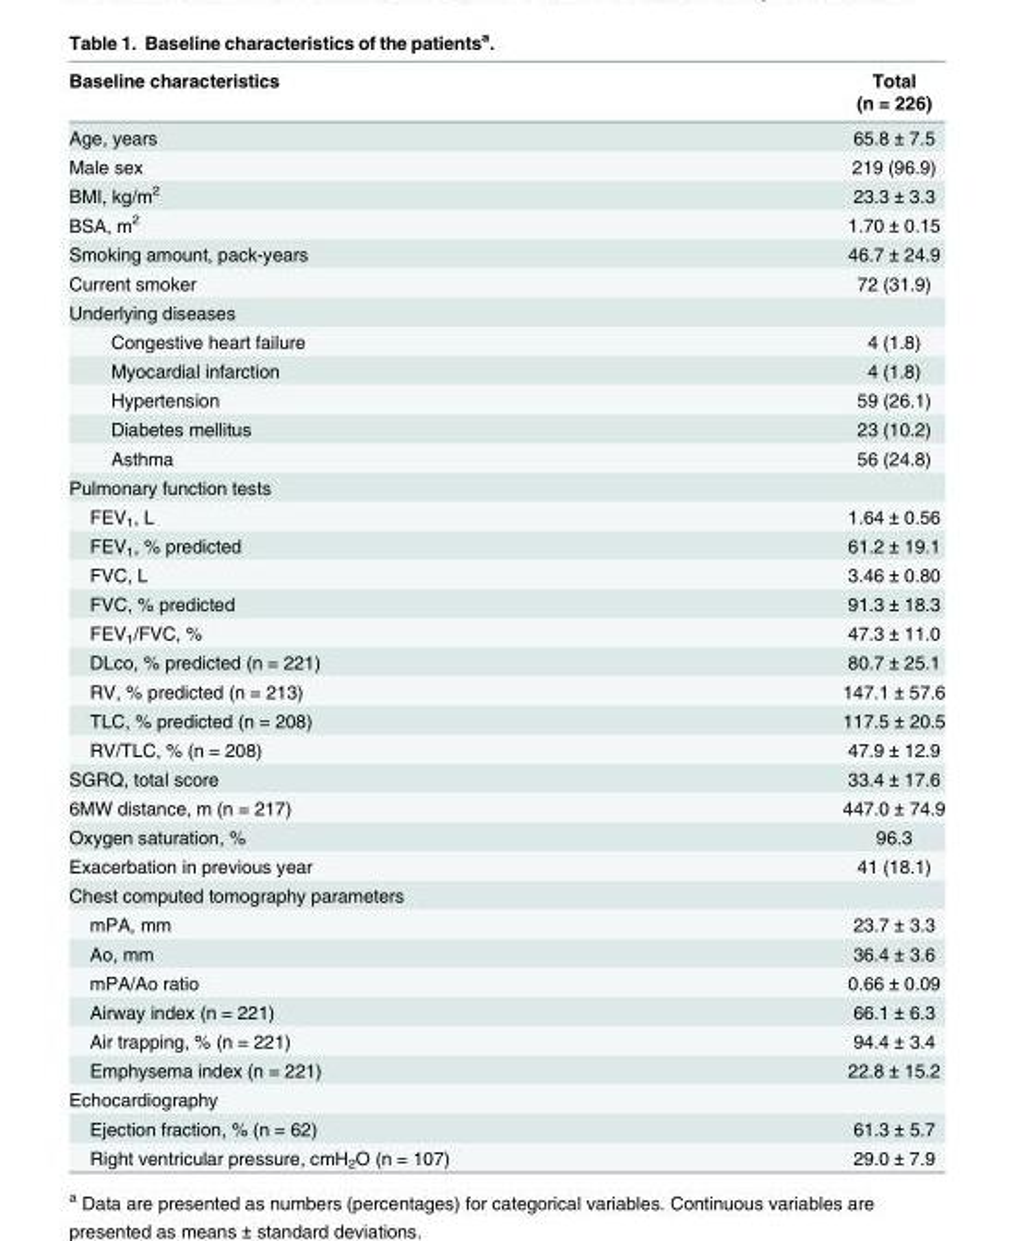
<table><thead><tr><td rowspan="2">Baseline characteristics</td><td rowspan="2">Total (n = 226)</td></tr><tr></tr></thead><tbody><tr><td>Age, years</td><td>65.8 ± 7.5</td></tr><tr><td>Male sex</td><td>219 (96.9)</td></tr><tr><td>BMI, kg/m<sup>2</sup></td><td>23.3 ± 3.3</td></tr><tr><td>BSA, m<sup>2</sup></td><td>1.70 ± 0.15</td></tr><tr><td>Smoking amount, pack-years</td><td>46.7 ± 24.9</td></tr><tr><td>Current smoker</td><td>72 (31.9)</td></tr><tr><td colspan="2">Underlying diseases</td></tr><tr><td>Congestive heart failure</td><td>4 (1.8)</td></tr><tr><td>Myocardial infarction</td><td>4 (1.8)</td></tr><tr><td>Hypertension</td><td>59 (26.1)</td></tr><tr><td>Diabetes mellitus</td><td>23 (10.2)</td></tr><tr><td>Asthma</td><td>56 (24.8)</td></tr><tr><td colspan="2">Pulmonary function tests</td></tr><tr><td>FEV<sub>1</sub>, L</td><td>1.64 ± 0.56</td></tr><tr><td>FEV<sub>1</sub>, % predicted</td><td>61.2 ± 19.1</td></tr><tr><td>FVC, L</td><td>3.46 ± 0.80</td></tr><tr><td>FVC, % predicted</td><td>91.3 ± 18.3</td></tr><tr><td>FEV<sub>1</sub>/FVC, %</td><td>47.3 ± 11.0</td></tr><tr><td>DLco, % predicted (n = 221)</td><td>80.7 ± 25.1</td></tr><tr><td>RV, % predicted (n = 213)</td><td>147.1 ± 57.6</td></tr><tr><td>TLC, % predicted (n = 208)</td><td>117.5 ± 20.5</td></tr><tr><td>RV/TLC, % (n = 208)</td><td>47.9 ± 12.9</td></tr><tr><td>SGRQ, total score</td><td>33.4 ± 17.6</td></tr><tr><td>6MW distance, m (n = 217)</td><td>447.0 ± 74.9</td></tr><tr><td>Oxygen saturation, %</td><td>96.3</td></tr><tr><td>Exacerbation in previous year</td><td>41 (18.1)</td></tr><tr><td colspan="2">Chest computed tomography parameters</td></tr><tr><td>mPA, mm</td><td>23.7 ± 3.3</td></tr><tr><td>Ao, mm</td><td>36.4 ± 3.6</td></tr><tr><td>mPA/Ao ratio</td><td>0.66 ± 0.09</td></tr><tr><td>Airway index (n = 221)</td><td>66.1 ± 6.3</td></tr><tr><td>Air trapping, % (n = 221)</td><td>94.4 ± 3.4</td></tr><tr><td>Emphysema index (n = 221)</td><td>22.8 ± 15.2</td></tr><tr><td colspan="2">Echocardiography</td></tr><tr><td>Ejection fraction, % (n = 62)</td><td>61.3 ± 5.7</td></tr><tr><td>Right ventricular pressure, cmH<sub>2</sub>O (n = 107)</td><td>29.0 ± 7.9</td></tr></tbody></table>